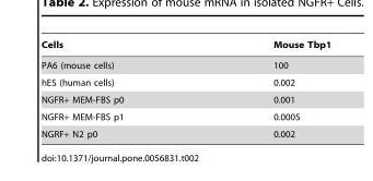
<table><thead><tr><td>Cells</td><td>Mouse Tbp1</td></tr></thead><tbody><tr><td>PA6 (mouse cells)</td><td>100</td></tr><tr><td>hES (human cells)</td><td>0.002</td></tr><tr><td>NGFR+ MEM-FBS p0</td><td>0.001</td></tr><tr><td>NGFR+ MEM-FBS p1</td><td>0.0005</td></tr><tr><td>NGRF+ N2 p0</td><td>0.002</td></tr></tbody></table>